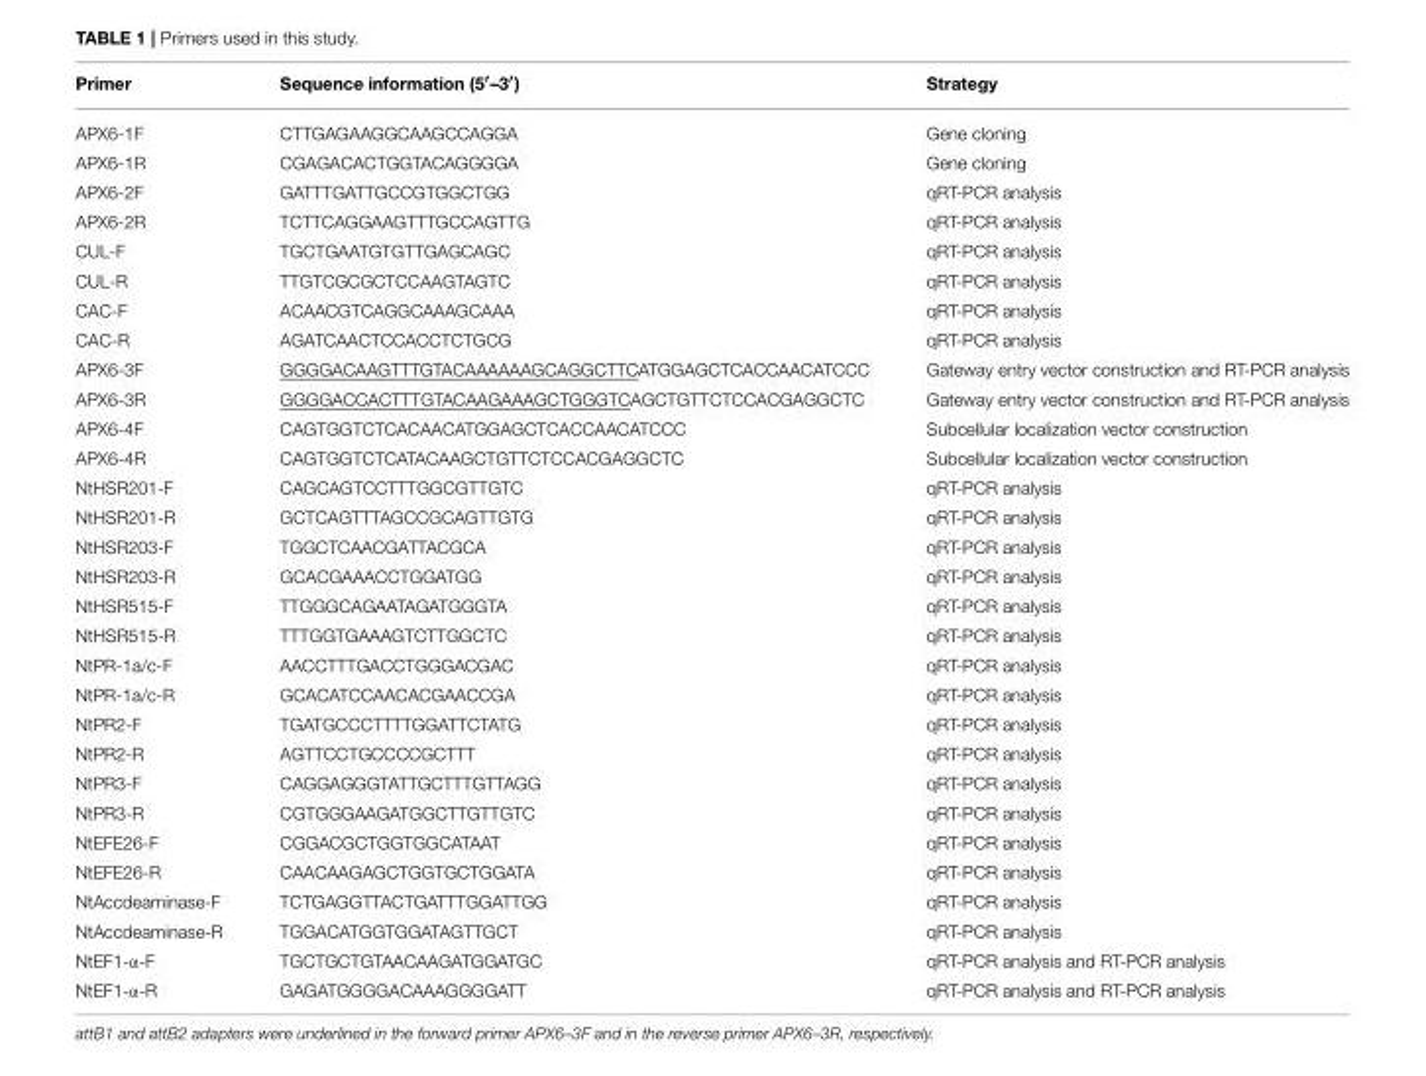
<table><thead><tr><td>Primer</td><td>Sequence information (5′–3′)</td><td>Strategy</td></tr></thead><tbody><tr><td>APX6-1F</td><td>CTTGAGAAGGCAAGCCAGGA</td><td>Gene cloning</td></tr><tr><td>APX6-1R</td><td>CGAGACACTGGTACAGGGGA</td><td>Gene cloning</td></tr><tr><td>APX6-2F</td><td>GATTTGATTGCCGTGGCTGG</td><td>qRT-PCR analysis</td></tr><tr><td>APX6-2R</td><td>TCTTCAGGAAGTTTGCCAGTTG</td><td>qRT-PCR analysis</td></tr><tr><td>CUL-F</td><td>TGCTGAATGTGTTGAGCAGC</td><td>qRT-PCR analysis</td></tr><tr><td>CUL-R</td><td>TTGTCGCGCTCCAAGTAGTC</td><td>qRT-PCR analysis</td></tr><tr><td>CAC-F</td><td>ACAACGTCAGGCAAAGCAAA</td><td>qRT-PCR analysis</td></tr><tr><td>CAC-R</td><td>AGATCAACTCCACCTCTGCG</td><td>qRT-PCR analysis</td></tr><tr><td>APX6-3F</td><td>GGGGACAAGTTTGTACAAAAAAGCAGGCTTCATGGAGCTCACCAACATCCC</td><td>Gateway entry vector construction and RT-PCR analysis</td></tr><tr><td>APX6-3R</td><td>GGGGACCACTTTGTACAAGAAAGCTGGGTCAGCTGTTCTCCACGAGGCTC</td><td>Gateway entry vector construction and RT-PCR analysis</td></tr><tr><td>APX6-4F</td><td>CAGTGGTCTCACAACATGGAGCTCACCAACATCCC</td><td>Subcellular localization vector construction</td></tr><tr><td>APX6-4R</td><td>CAGTGGTCTCATACAAGCTGTTCTCCACGAGGCTC</td><td>Subcellular localization vector construction</td></tr><tr><td>NtHSR201-F</td><td>CAGCAGTCCTTTGGCGTTGTC</td><td>qRT-PCR analysis</td></tr><tr><td>NtHSR201-R</td><td>GCTCAGTTTAGCCGCAGTTGTG</td><td>qRT-PCR analysis</td></tr><tr><td>NtHSR203-F</td><td>TGGCTCAACGATTACGCA</td><td>qRT-PCR analysis</td></tr><tr><td>NtHSR203-R</td><td>GCACGAAACCTGGATGG</td><td>qRT-PCR analysis</td></tr><tr><td>NtHSR515-F</td><td>TTGGGCAGAATAGATGGGTA</td><td>qRT-PCR analysis</td></tr><tr><td>NtHSR515-R</td><td>TTTGGTGAAAGTCTTGGCTC</td><td>qRT-PCR analysis</td></tr><tr><td>NtPR-1a/c-F</td><td>AACCTTTGACCTGGGACGAC</td><td>qRT-PCR analysis</td></tr><tr><td>NtPR-1a/c-R</td><td>GCACATCCAACACGAACCGA</td><td>qRT-PCR analysis</td></tr><tr><td>NtPR2-F</td><td>TGATGCCCTTTTGGATTCTATG</td><td>qRT-PCR analysis</td></tr><tr><td>NtPR2-R</td><td>AGTTCCTGCCCCGCTTT</td><td>qRT-PCR analysis</td></tr><tr><td>NtPR3-F</td><td>CAGGAGGGTATTGCTTTGTTAGG</td><td>qRT-PCR analysis</td></tr><tr><td>NtPR3-R</td><td>CGTGGGAAGATGGCTTGTTGTC</td><td>qRT-PCR analysis</td></tr><tr><td>NtEFE26-F</td><td>CGGACGCTGGTGGCATAAT</td><td>qRT-PCR analysis</td></tr><tr><td>NtEFE26-R</td><td>CAACAAGAGCTGGTGCTGGATA</td><td>qRT-PCR analysis</td></tr><tr><td>NtAccdeaminase-F</td><td>TCTGAGGTTACTGATTTGGATTGG</td><td>qRT-PCR analysis</td></tr><tr><td>NtAccdeaminase-R</td><td>TGGACATGGTGGATAGTTGCT</td><td>qRT-PCR analysis</td></tr><tr><td>NtEF1-α-F</td><td>TGCTGCTGTAACAAGATGGATGC</td><td>qRT-PCR analysis and RT-PCR analysis</td></tr><tr><td>NtEF1-α-R</td><td>GAGATGGGGACAAAGGGGATT</td><td>qRT-PCR analysis and RT-PCR analysis</td></tr></tbody></table>